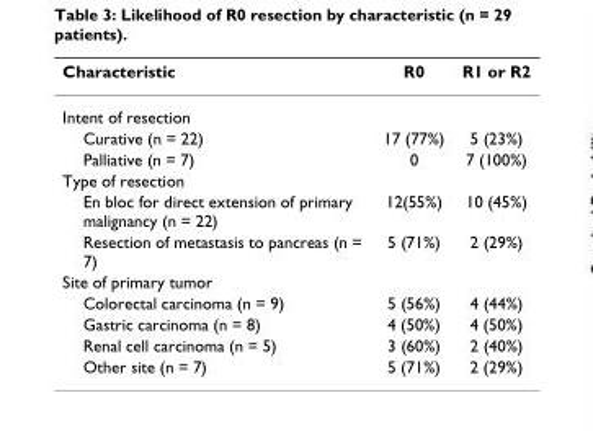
<table><thead><tr><td>Characteristic</td><td>R0</td><td>R1 or R2</td></tr></thead><tbody><tr><td colspan="3">Intent of resection</td></tr><tr><td>Curative (n = 22)</td><td>17 (77%)</td><td>5 (23%)</td></tr><tr><td>Palliative (n = 7)</td><td>0</td><td>7 (100%)</td></tr><tr><td colspan="3">Type of resection</td></tr><tr><td>En bloc for direct extension of primary malignancy (n = 22)</td><td>12(55%)</td><td>10 (45%)</td></tr><tr><td>Resection of metastasis to pancreas (n = 7)</td><td>5 (71%)</td><td>2 (29%)</td></tr><tr><td colspan="3">Site of primary tumor</td></tr><tr><td>Colorectal carcinoma (n = 9)</td><td>5 (56%)</td><td>4 (44%)</td></tr><tr><td>Gastric carcinoma (n = 8)</td><td>4 (50%)</td><td>4 (50%)</td></tr><tr><td>Renal cell carcinoma (n = 5)</td><td>3 (60%)</td><td>2 (40%)</td></tr><tr><td>Other site (n = 7)</td><td>5 (71%)</td><td>2 (29%)</td></tr></tbody></table>